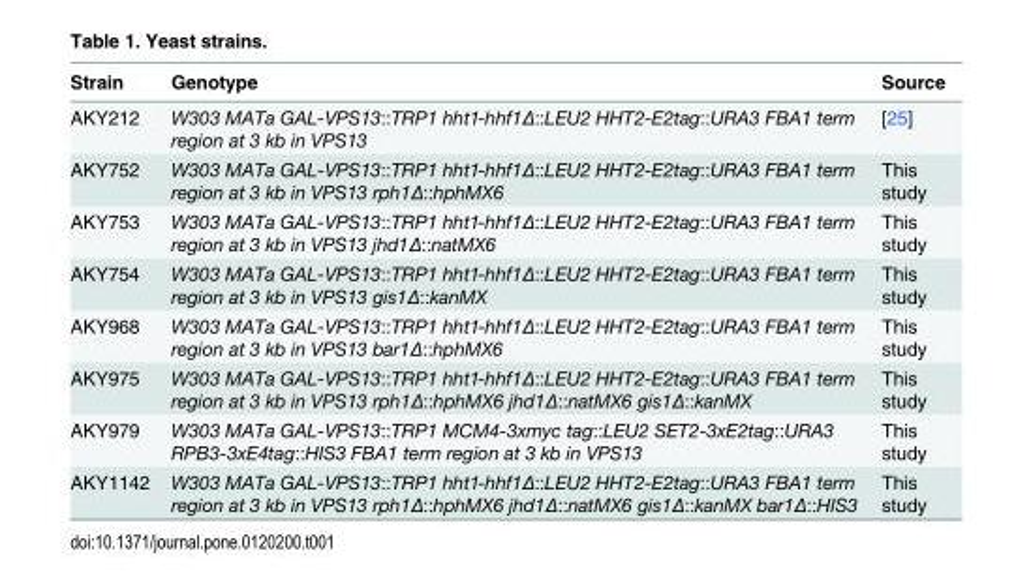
<table><thead><tr><td>Strain</td><td>Genotype</td><td>Source</td></tr></thead><tbody><tr><td>AKY212</td><td>W303 MATa GAL-VPS13::TRP1 hht1-hhf1Δ::LEU2 HHT2-E2tag::URA3 FBA1 term region at 3 kb in VPS13</td><td>[25]</td></tr><tr><td>AKY752</td><td>W303 MATa GAL-VPS13::TRP1 hht1-hhf1Δ::LEU2 HHT2-E2tag::URA3 FBA1 term region at 3 kb in VPS13 rph1Δ::hphMX6</td><td>This study</td></tr><tr><td>AKY753</td><td>W303 MATa GAL-VPS13::TRP1 hht1-hhf1Δ::LEU2 HHT2-E2tag::URA3 FBA1 term region at 3 kb in VPS13 jhd1Δ::natMX6</td><td>This study</td></tr><tr><td>AKY754</td><td>W303 MATa GAL-VPS13::TRP1 hht1-hhf1Δ::LEU2 HHT2-E2tag::URA3 FBA1 term region at 3 kb in VPS13 gis1Δ::kanMX</td><td>This study</td></tr><tr><td>AKY968</td><td>W303 MATa GAL-VPS13::TRP1 hht1-hhf1Δ::LEU2 HHT2-E2tag::URA3 FBA1 term region at 3 kb in VPS13 bar1Δ::hphMX6</td><td>This study</td></tr><tr><td>AKY975</td><td>W303 MATa GAL-VPS13::TRP1 hht1-hhf1Δ::LEU2 HHT2-E2tag::URA3 FBA1 term region at 3 kb in VPS13 rph1Δ::hphMX6 jhd1Δ::natMX6 gis1Δ::kanMX</td><td>This study</td></tr><tr><td>AKY979</td><td>W303 MATa GAL-VPS13::TRP1 MCM4-3xmyc tag::LEU2 SET2-3xE2tag::URA3 RPB3-3xE4tag::HIS3 FBA1 term region at 3 kb in VPS13</td><td>This study</td></tr><tr><td>AKY1142</td><td>W303 MATa GAL-VPS13::TRP1 hht1-hhf1Δ::LEU2 HHT2-E2tag::URA3 FBA1 term region at 3 kb in VPS13 rph1Δ::hphMX6 jhd1Δ::natMX6 gis1Δ::kanMX bar1Δ::HIS3</td><td>This study</td></tr></tbody></table>